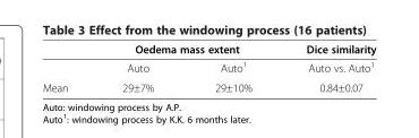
<table><thead><tr><td rowspan="2"></td><td colspan="2">Oedema mass extent</td><td rowspan="2">Dice similarity Auto vs. Auto<sup>1</sup></td></tr><tr><td>Auto</td><td>Auto<sup>1</sup></td></tr></thead><tbody><tr><td>Mean</td><td>29±7%</td><td>29±10%</td><td>0.84±0.07</td></tr></tbody></table>